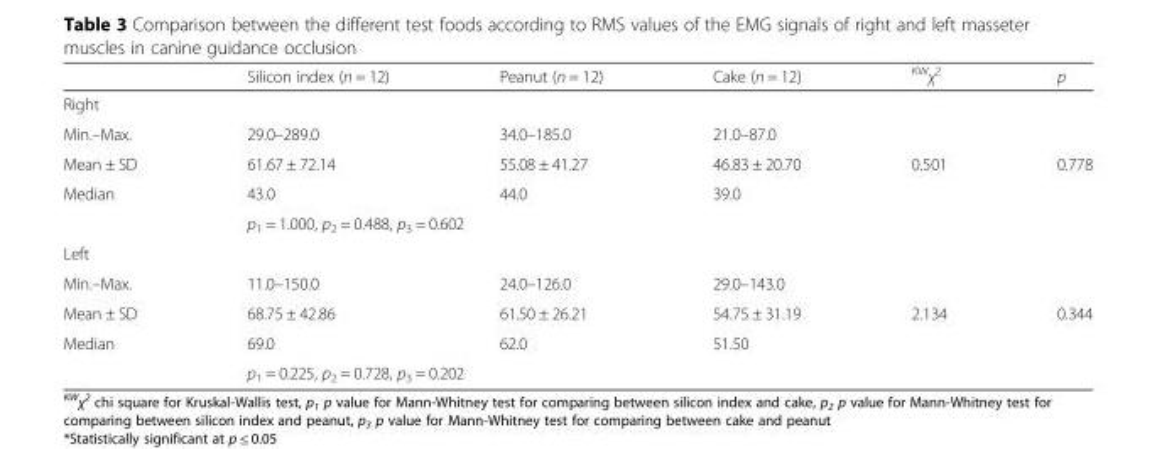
<table><thead><tr><td></td><td>Silicon index (n = 12)</td><td>Peanut (n = 12)</td><td>Cake (n = 12)</td><td><sup>KW</sup>χ<sup>2</sup></td><td>p</td></tr></thead><tbody><tr><td colspan="6">Right</td></tr><tr><td>Min.–Max.</td><td>29.0–289.0</td><td>34.0–185.0</td><td>21.0–87.0</td><td></td><td></td></tr><tr><td>Mean ± SD</td><td>61.67 ± 72.14</td><td>55.08 ± 41.27</td><td>46.83 ± 20.70</td><td>0.501</td><td>0.778</td></tr><tr><td rowspan="2">Median</td><td>43.0</td><td>44.0</td><td>39.0</td><td></td><td></td></tr><tr><td colspan="3">p<sub>1</sub> = 1.000, p<sub>2</sub> = 0.488, p<sub>3</sub> = 0.602</td><td></td><td></td></tr><tr><td colspan="6">Left</td></tr><tr><td>Min.–Max.</td><td>11.0–150.0</td><td>24.0–126.0</td><td>29.0–143.0</td><td></td><td></td></tr><tr><td>Mean ± SD</td><td>68.75 ± 42.86</td><td>61.50 ± 26.21</td><td>54.75 ± 31.19</td><td>2.134</td><td>0.344</td></tr><tr><td rowspan="2">Median</td><td>69.0</td><td>62.0</td><td>51.50</td><td></td><td></td></tr><tr><td colspan="3">p<sub>1</sub> = 0.225, p<sub>2</sub> = 0.728, p<sub>3</sub> = 0.202</td><td></td><td></td></tr></tbody></table>